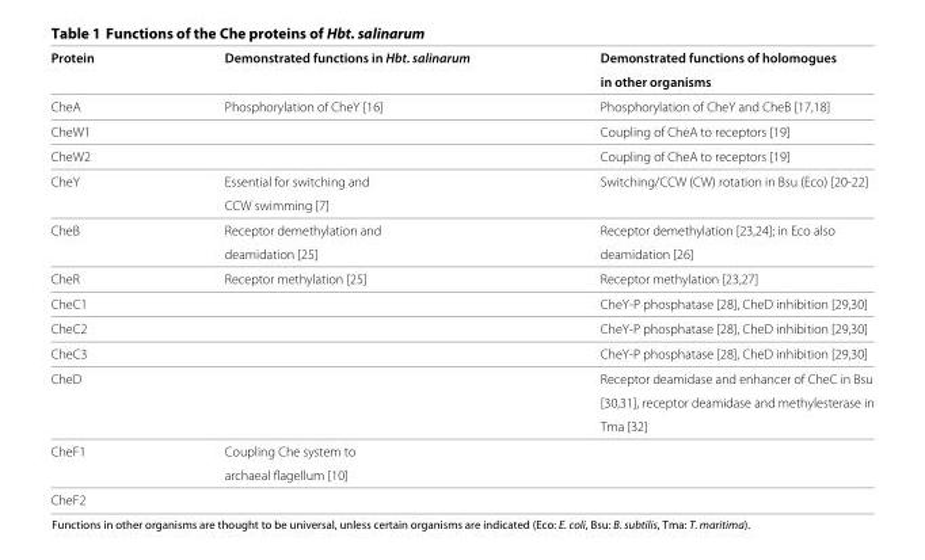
<table><thead><tr><td>Protein</td><td>Demonstrated functions in Hbt. salinarum</td><td>Demonstrated functions of holomogues in other organisms</td></tr></thead><tbody><tr><td>CheA</td><td>Phosphorylation of CheY [16]</td><td>Phosphorylation of CheY and CheB [17,18]</td></tr><tr><td>CheW1</td><td></td><td>Coupling of CheA to receptors [19]</td></tr><tr><td>CheW2</td><td></td><td>Coupling of CheA to receptors [19]</td></tr><tr><td rowspan="2">CheY</td><td>Essential for switching and</td><td>Switching/CCW (CW) rotation in Bsu (Eco) [20-22]</td></tr><tr><td>CCW swimming [7]</td><td></td></tr><tr><td rowspan="2">CheB</td><td>Receptor demethylation and</td><td>Receptor demethylation [23,24]; in Eco also</td></tr><tr><td>deamidation [25]</td><td>deamidation [26]</td></tr><tr><td>CheR</td><td>Receptor methylation [25]</td><td>Receptor methylation [23,27]</td></tr><tr><td>CheC1</td><td></td><td>CheY-P phosphatase [28], CheD inhibition [29,30]</td></tr><tr><td>CheC2</td><td></td><td>CheY-P phosphatase [28], CheD inhibition [29,30]</td></tr><tr><td>CheC3</td><td></td><td>CheY-P phosphatase [28], CheD inhibition [29,30]</td></tr><tr><td rowspan="3">CheD</td><td></td><td>Receptor deamidase and enhancer of CheC in Bsu</td></tr><tr><td></td><td>[30,31], receptor deamidase and methylesterase in</td></tr><tr><td></td><td>Tma [32]</td></tr><tr><td rowspan="2">CheF1</td><td>Coupling Che system to</td><td></td></tr><tr><td>archaeal flagellum [10]</td><td></td></tr><tr><td>CheF2</td><td></td><td></td></tr></tbody></table>